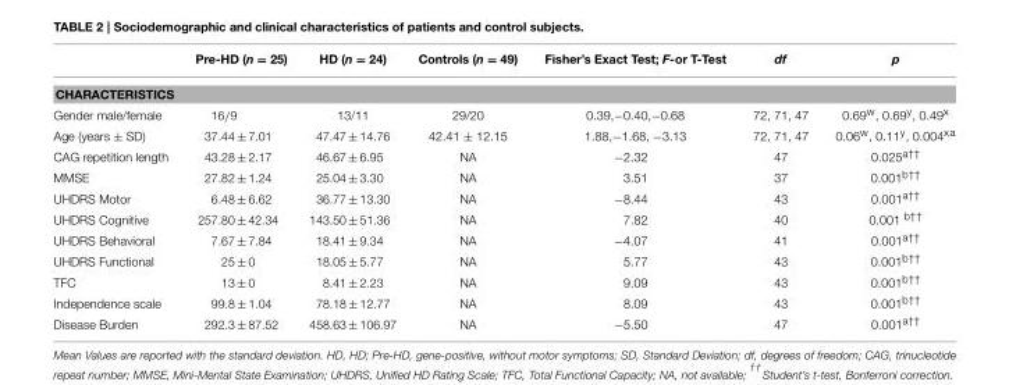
<table><thead><tr><td></td><td>Pre-HD (n = 25)</td><td>HD (n = 24)</td><td>Controls (n = 49)</td><td>Fisher’s Exact Test; F-or T-Test</td><td>df</td><td>p</td></tr></thead><tbody><tr><td colspan="7">CHARACTERISTICS</td></tr><tr><td>Gender male/female</td><td>16/9</td><td>13/11</td><td>29/20</td><td>0.39,−0.40,−0.68</td><td>72, 71, 47</td><td>0.69<sup>w</sup>, 0.69<sup>y</sup>, 0.49<sup>x</sup></td></tr><tr><td>Age (years ± SD)</td><td>37.44 ± 7.01</td><td>47.47 ± 14.76</td><td>42.41 ± 12.15</td><td>1.88,−1.68, −3.13</td><td>72, 71, 47</td><td>0.06<sup>w</sup>, 0.11<sup>y</sup>, 0.004<sup>xa</sup></td></tr><tr><td>CAG repetition length</td><td>43.28 ± 2.17</td><td>46.67 ± 6.95</td><td>NA</td><td>−2.32</td><td>47</td><td>0.025<sup>a††</sup></td></tr><tr><td>MMSE</td><td>27.82 ± 1.24</td><td>25.04 ± 3.30</td><td>NA</td><td>3.51</td><td>37</td><td>0.001<sup>b††</sup></td></tr><tr><td>UHDRS Motor</td><td>6.48 ± 6.62</td><td>36.77 ± 13.30</td><td>NA</td><td>−8.44</td><td>43</td><td>0.001<sup>a††</sup></td></tr><tr><td>UHDRS Cognitive</td><td>257.80 ± 42.34</td><td>143.50 ± 51.36</td><td>NA</td><td>7.82</td><td>40</td><td>0.001 <sup>b††</sup></td></tr><tr><td>UHDRS Behavioral</td><td>7.67 ± 7.84</td><td>18.41 ± 9.34</td><td>NA</td><td>−4.07</td><td>41</td><td>0.001<sup>a††</sup></td></tr><tr><td>UHDRS Functional</td><td>25 ± 0</td><td>18.05 ± 5.77</td><td>NA</td><td>5.77</td><td>43</td><td>0.001<sup>b††</sup></td></tr><tr><td>TFC</td><td>13 ± 0</td><td>8.41 ± 2.23</td><td>NA</td><td>9.09</td><td>43</td><td>0.001<sup>b††</sup></td></tr><tr><td>Independence scale</td><td>99.8 ± 1.04</td><td>78.18 ± 12.77</td><td>NA</td><td>8.09</td><td>43</td><td>0.001<sup>b††</sup></td></tr><tr><td>Disease Burden</td><td>292.3 ± 87.52</td><td>458.63 ± 106.97</td><td>NA</td><td>−5.50</td><td>47</td><td>0.001<sup>a††</sup></td></tr></tbody></table>